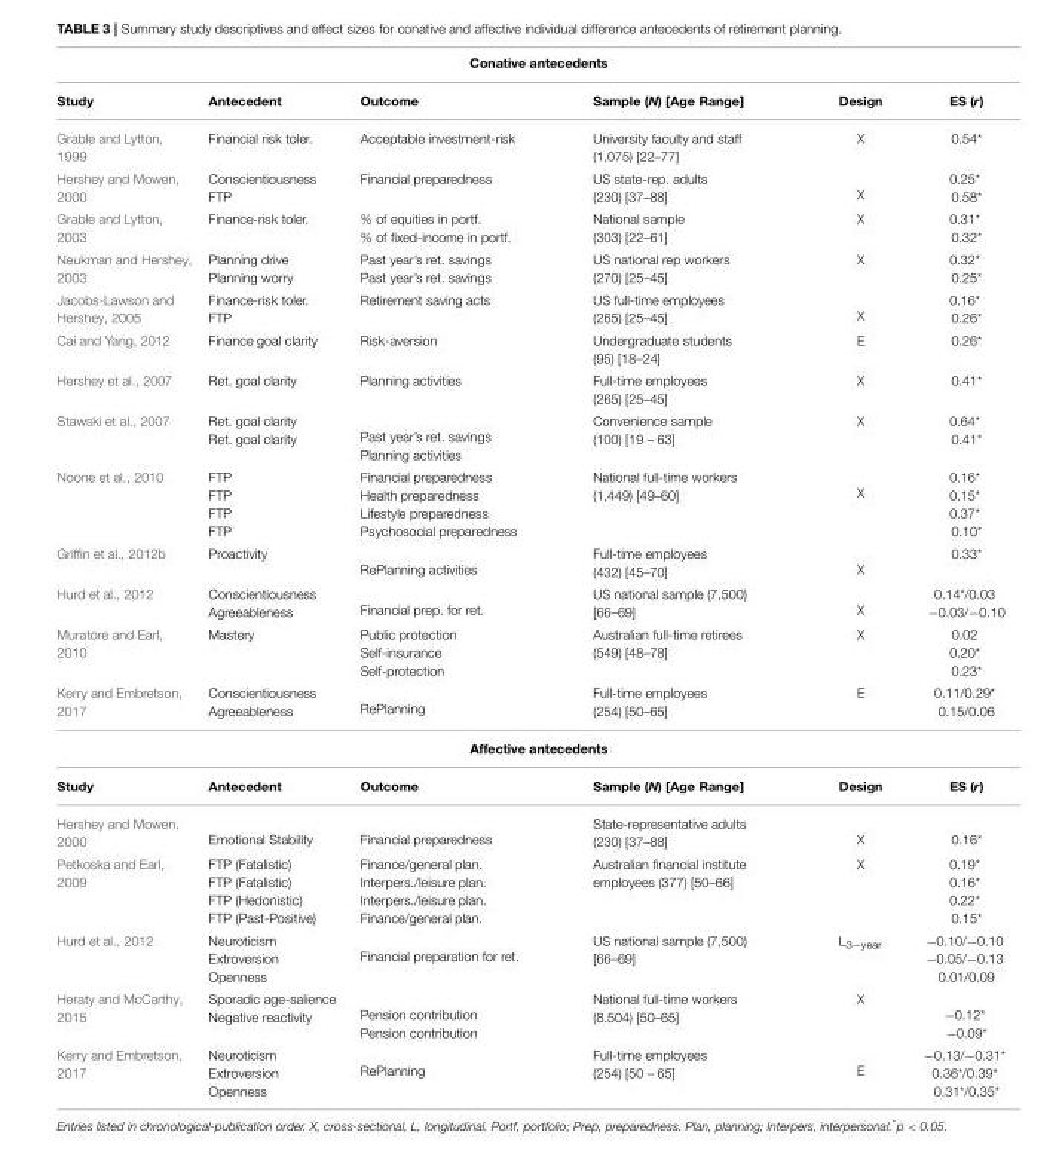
<table><thead><tr><td colspan="6">Conative antecedents</td></tr><tr><td>Study</td><td>Antecedent</td><td>Outcome</td><td>Sample (N) [Age Range]</td><td>Design</td><td>ES (r)</td></tr></thead><tbody><tr><td>Grable and Lytton, 1999</td><td>Financial risk toler.</td><td>Acceptable investment-risk</td><td>University faculty and staff (1,075) [22–77]</td><td>X</td><td>0.54*</td></tr><tr><td>Hershey and Mowen, 2000</td><td>Conscientiousness FTP</td><td>Financial preparedness</td><td>US state-rep. adults (230) [37–88]</td><td>X</td><td>0.25* 0.58*</td></tr><tr><td>Grable and Lytton, 2003</td><td>Finance-risk toler.</td><td>% of equities in portf. % of fixed-income in portf.</td><td>National sample (303) [22–61]</td><td>X</td><td>0.31* 0.32*</td></tr><tr><td>Neukman and Hershey, 2003</td><td>Planning drive Planning worry</td><td>Past year’s ret. savings Past year’s ret. savings</td><td>US national rep workers (270) [25–45]</td><td>X</td><td>0.32* 0.25*</td></tr><tr><td>Jacobs-Lawson and Hershey, 2005</td><td>Finance-risk toler. FTP</td><td>Retirement saving acts</td><td>US full-time employees (265) [25–45]</td><td>X</td><td>0.16* 0.26*</td></tr><tr><td>Cai and Yang, 2012</td><td>Finance goal clarity</td><td>Risk-aversion</td><td>Undergraduate students (95) [18–24]</td><td>E</td><td>0.26*</td></tr><tr><td>Hershey et al., 2007</td><td>Ret. goal clarity</td><td>Planning activities</td><td>Full-time employees (265) [25–45]</td><td>X</td><td>0.41*</td></tr><tr><td>Stawski et al., 2007</td><td>Ret. goal clarity Ret. goal clarity</td><td>Past year’s ret. savings Planning activities</td><td>Convenience sample (100) [19 – 63]</td><td>X</td><td>0.64* 0.41*</td></tr><tr><td>Noone et al., 2010</td><td>FTP FTP FTP FTP</td><td>Financial preparedness Health preparedness Lifestyle preparedness Psychosocial preparedness</td><td>National full-time workers (1,449) [49–60]</td><td>X</td><td>0.16* 0.15* 0.37* 0.10*</td></tr><tr><td>Griffin et al., 2012b</td><td>Proactivity</td><td>RePlanning activities</td><td>Full-time employees (432) [45–70]</td><td>X</td><td>0.33*</td></tr><tr><td>Hurd et al., 2012</td><td>Conscientiousness Agreeableness</td><td>Financial prep. for ret.</td><td>US national sample (7,500) [66–69]</td><td>X</td><td>0.14*/0.03 −0.03/−0.10</td></tr><tr><td>Muratore and Earl, 2010</td><td>Mastery</td><td>Public protection Self-insurance Self-protection</td><td>Australian full-time retirees (549) [48–78]</td><td>X</td><td>0.02 0.20* 0.23*</td></tr><tr><td>Kerry and Embretson, 2017</td><td>Conscientiousness Agreeableness</td><td>RePlanning</td><td>Full-time employees (254) [50–65]</td><td>E</td><td>0.11/0.29* 0.15/0.06</td></tr><tr><td colspan="6">Affective antecedents</td></tr><tr><td>Study</td><td>Antecedent</td><td>Outcome</td><td>Sample (N) [Age Range]</td><td>Design</td><td>ES (r)</td></tr><tr><td>Hershey and Mowen, 2000</td><td>Emotional Stability</td><td>Financial preparedness</td><td>State-representative adults (230) [37–88]</td><td>X</td><td>0.16*</td></tr><tr><td>Petkoska and Earl, 2009</td><td>FTP (Fatalistic) FTP (Fatalistic) FTP (Hedonistic) FTP (Past-Positive)</td><td>Finance/general plan. Interpers./leisure plan. Interpers./leisure plan. Finance/general plan.</td><td>Australian financial institute employees (377) [50–66]</td><td>X</td><td>0.19* 0.16* 0.22* 0.15*</td></tr><tr><td>Hurd et al., 2012</td><td>Neuroticism Extroversion Openness</td><td>Financial preparation for ret.</td><td>US national sample (7,500) [66–69]</td><td>L<sub>3−year</sub></td><td>−0.10/−0.10 −0.05/−0.13 0.01/0.09</td></tr><tr><td>Heraty and McCarthy, 2015</td><td>Sporadic age-salience Negative reactivity</td><td>Pension contribution Pension contribution</td><td>National full-time workers (8.504) [50–65]</td><td>X</td><td>−0.12* −0.09*</td></tr><tr><td>Kerry and Embretson, 2017</td><td>Neuroticism Extroversion Openness</td><td>RePlanning</td><td>Full-time employees (254) [50 – 65]</td><td>E</td><td>−0.13/−0.31* 0.36*/0.39* 0.31*/0.35*</td></tr></tbody></table>